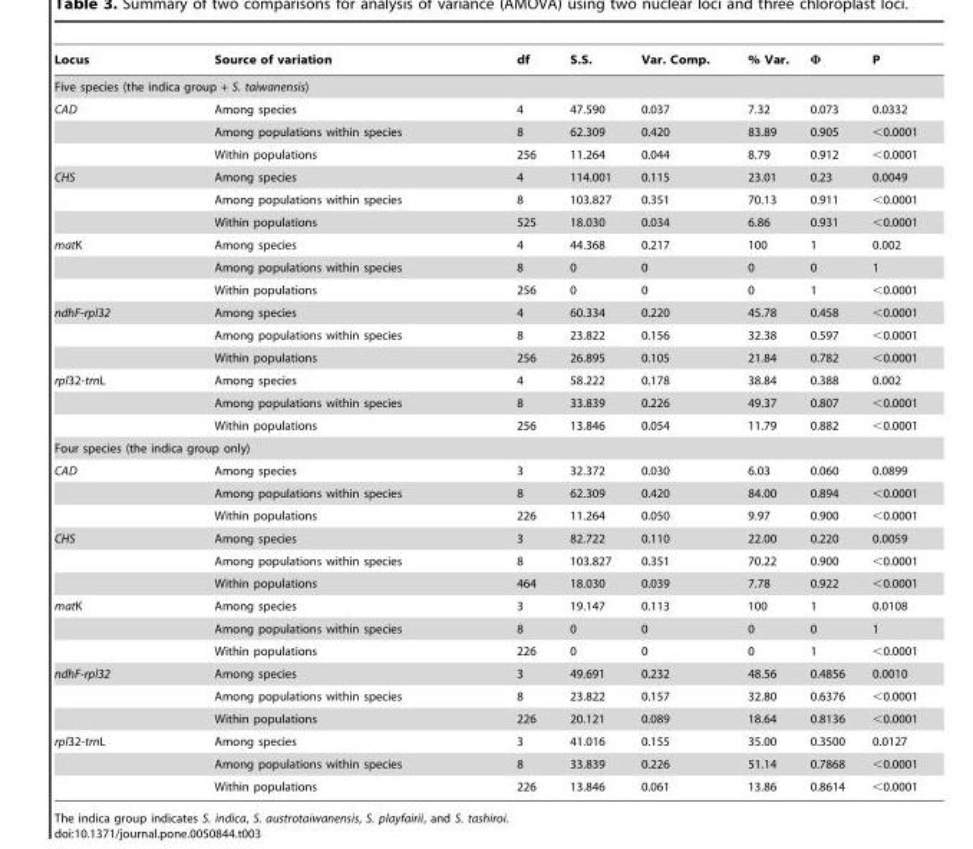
<table><thead><tr><td>Locus</td><td>Source of variation</td><td>df</td><td>S.S.</td><td>Var. Comp.</td><td>% Var.</td><td>Φ</td><td>P</td></tr></thead><tbody><tr><td colspan="8">Five species (the indica group + S. taiwanensis)</td></tr><tr><td rowspan="3">CAD</td><td>Among species</td><td>4</td><td>47.590</td><td>0.037</td><td>7.32</td><td>0.073</td><td>0.0332</td></tr><tr><td>Among populations within species</td><td>8</td><td>62.309</td><td>0.420</td><td>83.89</td><td>0.905</td><td>&lt;0.0001</td></tr><tr><td>Within populations</td><td>256</td><td>11.264</td><td>0.044</td><td>8.79</td><td>0.912</td><td>&lt;0.0001</td></tr><tr><td rowspan="3">CHS</td><td>Among species</td><td>4</td><td>114.001</td><td>0.115</td><td>23.01</td><td>0.23</td><td>0.0049</td></tr><tr><td>Among populations within species</td><td>8</td><td>103.827</td><td>0.351</td><td>70.13</td><td>0.911</td><td>&lt;0.0001</td></tr><tr><td>Within populations</td><td>525</td><td>18.030</td><td>0.034</td><td>6.86</td><td>0.931</td><td>&lt;0.0001</td></tr><tr><td rowspan="3">matK</td><td>Among species</td><td>4</td><td>44.368</td><td>0.217</td><td>100</td><td>1</td><td>0.002</td></tr><tr><td>Among populations within species</td><td>8</td><td>0</td><td>0</td><td>0</td><td>0</td><td>1</td></tr><tr><td>Within populations</td><td>256</td><td>0</td><td>0</td><td>0</td><td>1</td><td>&lt;0.0001</td></tr><tr><td rowspan="3">ndhF-rpl32</td><td>Among species</td><td>4</td><td>60.334</td><td>0.220</td><td>45.78</td><td>0.458</td><td>&lt;0.0001</td></tr><tr><td>Among populations within species</td><td>8</td><td>23.822</td><td>0.156</td><td>32.38</td><td>0.597</td><td>&lt;0.0001</td></tr><tr><td>Within populations</td><td>256</td><td>26.895</td><td>0.105</td><td>21.84</td><td>0.782</td><td>&lt;0.0001</td></tr><tr><td rowspan="3">rpl32-trnL</td><td>Among species</td><td>4</td><td>58.222</td><td>0.178</td><td>38.84</td><td>0.388</td><td>0.002</td></tr><tr><td>Among populations within species</td><td>8</td><td>33.839</td><td>0.226</td><td>49.37</td><td>0.807</td><td>&lt;0.0001</td></tr><tr><td>Within populations</td><td>256</td><td>13.846</td><td>0.054</td><td>11.79</td><td>0.882</td><td>&lt;0.0001</td></tr><tr><td colspan="8">Four species (the indica group only)</td></tr><tr><td rowspan="3">CAD</td><td>Among species</td><td>3</td><td>32.372</td><td>0.030</td><td>6.03</td><td>0.060</td><td>0.0899</td></tr><tr><td>Among populations within species</td><td>8</td><td>62.309</td><td>0.420</td><td>84.00</td><td>0.894</td><td>&lt;0.0001</td></tr><tr><td>Within populations</td><td>226</td><td>11.264</td><td>0.050</td><td>9.97</td><td>0.900</td><td>&lt;0.0001</td></tr><tr><td rowspan="3">CHS</td><td>Among species</td><td>3</td><td>82.722</td><td>0.110</td><td>22.00</td><td>0.220</td><td>0.0059</td></tr><tr><td>Among populations within species</td><td>8</td><td>103.827</td><td>0.351</td><td>70.22</td><td>0.900</td><td>&lt;0.0001</td></tr><tr><td>Within populations</td><td>464</td><td>18.030</td><td>0.039</td><td>7.78</td><td>0.922</td><td>&lt;0.0001</td></tr><tr><td rowspan="3">matK</td><td>Among species</td><td>3</td><td>19.147</td><td>0.113</td><td>100</td><td>1</td><td>0.0108</td></tr><tr><td>Among populations within species</td><td>8</td><td>0</td><td>0</td><td>0</td><td>0</td><td>1</td></tr><tr><td>Within populations</td><td>226</td><td>0</td><td>0</td><td>0</td><td>1</td><td>&lt;0.0001</td></tr><tr><td rowspan="3">ndhF-rpl32</td><td>Among species</td><td>3</td><td>49.691</td><td>0.232</td><td>48.56</td><td>0.4856</td><td>0.0010</td></tr><tr><td>Among populations within species</td><td>8</td><td>23.822</td><td>0.157</td><td>32.80</td><td>0.6376</td><td>&lt;0.0001</td></tr><tr><td>Within populations</td><td>226</td><td>20.121</td><td>0.089</td><td>18.64</td><td>0.8136</td><td>&lt;0.0001</td></tr><tr><td rowspan="3">rpl32-trnL</td><td>Among species</td><td>3</td><td>41.016</td><td>0.155</td><td>35.00</td><td>0.3500</td><td>0.0127</td></tr><tr><td>Among populations within species</td><td>8</td><td>33.839</td><td>0.226</td><td>51.14</td><td>0.7868</td><td>&lt;0.0001</td></tr><tr><td>Within populations</td><td>226</td><td>13.846</td><td>0.061</td><td>13.86</td><td>0.8614</td><td>&lt;0.0001</td></tr></tbody></table>